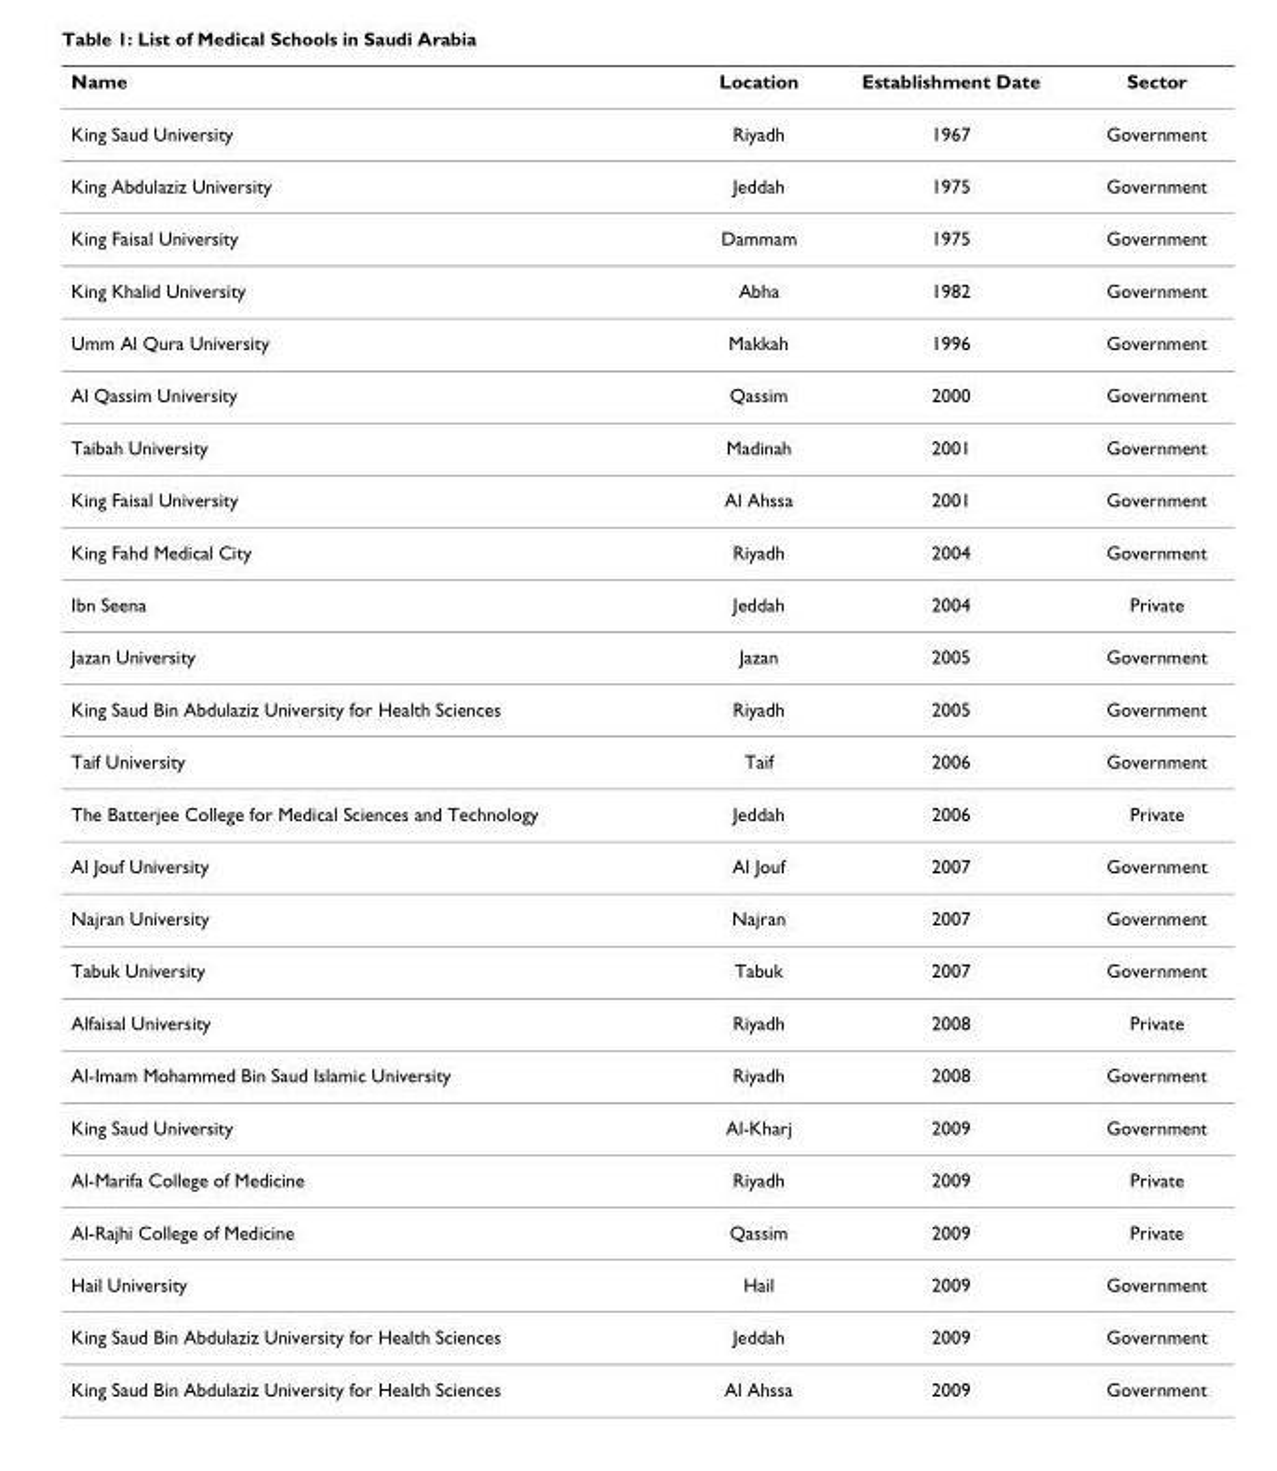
<table><thead><tr><td>Name</td><td>Location</td><td>Establishment Date</td><td>Sector</td></tr></thead><tbody><tr><td>King Saud University</td><td>Riyadh</td><td>1967</td><td>Government</td></tr><tr><td>King Abdulaziz University</td><td>Jeddah</td><td>1975</td><td>Government</td></tr><tr><td>King Faisal University</td><td>Dammam</td><td>1975</td><td>Government</td></tr><tr><td>King Khalid University</td><td>Abha</td><td>1982</td><td>Government</td></tr><tr><td>Umm Al Qura University</td><td>Makkah</td><td>1996</td><td>Government</td></tr><tr><td>Al Qassim University</td><td>Qassim</td><td>2000</td><td>Government</td></tr><tr><td>Taibah University</td><td>Madinah</td><td>2001</td><td>Government</td></tr><tr><td>King Faisal University</td><td>Al Ahssa</td><td>2001</td><td>Government</td></tr><tr><td>King Fahd Medical City</td><td>Riyadh</td><td>2004</td><td>Government</td></tr><tr><td>Ibn Seena</td><td>Jeddah</td><td>2004</td><td>Private</td></tr><tr><td>Jazan University</td><td>Jazan</td><td>2005</td><td>Government</td></tr><tr><td>King Saud Bin Abdulaziz University for Health Sciences</td><td>Riyadh</td><td>2005</td><td>Government</td></tr><tr><td>Taif University</td><td>Taif</td><td>2006</td><td>Government</td></tr><tr><td>The Batterjee College for Medical Sciences and Technology</td><td>Jeddah</td><td>2006</td><td>Private</td></tr><tr><td>Al Jouf University</td><td>Al Jouf</td><td>2007</td><td>Government</td></tr><tr><td>Najran University</td><td>Najran</td><td>2007</td><td>Government</td></tr><tr><td>Tabuk University</td><td>Tabuk</td><td>2007</td><td>Government</td></tr><tr><td>Alfaisal University</td><td>Riyadh</td><td>2008</td><td>Private</td></tr><tr><td>Al-Imam Mohammed Bin Saud Islamic University</td><td>Riyadh</td><td>2008</td><td>Government</td></tr><tr><td>King Saud University</td><td>Al-Kharj</td><td>2009</td><td>Government</td></tr><tr><td>Al-Marifa College of Medicine</td><td>Riyadh</td><td>2009</td><td>Private</td></tr><tr><td>Al-Rajhi College of Medicine</td><td>Qassim</td><td>2009</td><td>Private</td></tr><tr><td>Hail University</td><td>Hail</td><td>2009</td><td>Government</td></tr><tr><td>King Saud Bin Abdulaziz University for Health Sciences</td><td>Jeddah</td><td>2009</td><td>Government</td></tr><tr><td>King Saud Bin Abdulaziz University for Health Sciences</td><td>Al Ahssa</td><td>2009</td><td>Government</td></tr></tbody></table>